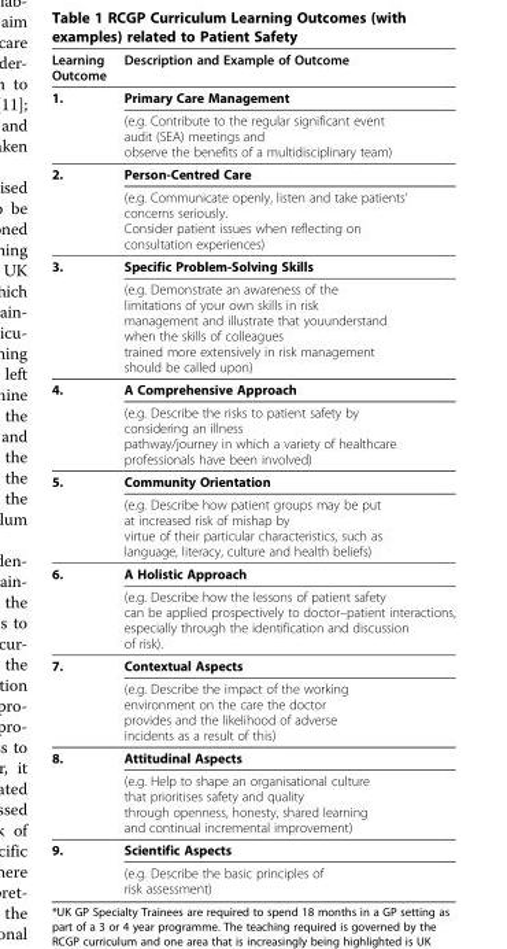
<table><thead><tr><td>Learning Outcome</td><td>Description and Example of Outcome</td></tr></thead><tbody><tr><td rowspan="2">1.</td><td>Primary Care Management</td></tr><tr><td>(e.g. Contribute to the regular significant event audit (SEA) meetings and observe the benefits of a multidisciplinary team)</td></tr><tr><td rowspan="2">2.</td><td>Person-Centred Care</td></tr><tr><td>(e.g. Communicate openly, listen and take patients’ concerns seriously. Consider patient issues when reflecting on consultation experiences)</td></tr><tr><td rowspan="2">3.</td><td>Specific Problem-Solving Skills</td></tr><tr><td>(e.g. Demonstrate an awareness of the limitations of your own skills in risk management and illustrate that youunderstand when the skills of colleagues trained more extensively in risk management should be called upon)</td></tr><tr><td rowspan="2">4.</td><td>A Comprehensive Approach</td></tr><tr><td>(e.g. Describe the risks to patient safety by considering an illness pathway/journey in which a variety of healthcare professionals have been involved)</td></tr><tr><td rowspan="2">5.</td><td>Community Orientation</td></tr><tr><td>(e.g. Describe how patient groups may be put at increased risk of mishap by virtue of their particular characteristics, such as language, literacy, culture and health beliefs)</td></tr><tr><td rowspan="2">6.</td><td>A Holistic Approach</td></tr><tr><td>(e.g. Describe how the lessons of patient safety can be applied prospectively to doctor–patient interactions, especially through the identification and discussion of risk).</td></tr><tr><td rowspan="2">7.</td><td>Contextual Aspects</td></tr><tr><td>(e.g. Describe the impact of the working environment on the care the doctor provides and the likelihood of adverse incidents as a result of this)</td></tr><tr><td rowspan="2">8.</td><td>Attitudinal Aspects</td></tr><tr><td>(e.g. Help to shape an organisational culture that prioritises safety and quality through openness, honesty, shared learning and continual incremental improvement)</td></tr><tr><td rowspan="2">9.</td><td>Scientific Aspects</td></tr><tr><td>(e.g. Describe the basic principles of risk assessment)</td></tr></tbody></table>